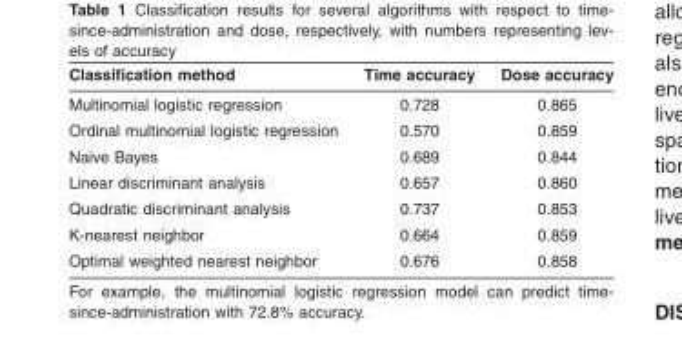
<table><thead><tr><td>Classification method</td><td>Time accuracy</td><td>Dose accuracy</td></tr></thead><tbody><tr><td>Multinomial logistic regression</td><td>0.728</td><td>0.865</td></tr><tr><td>Ordinal multinomial logistic regression</td><td>0.570</td><td>0.859</td></tr><tr><td>Naive Bayes</td><td>0.689</td><td>0.844</td></tr><tr><td>Linear discriminant analysis</td><td>0.657</td><td>0.860</td></tr><tr><td>Quadratic discriminant analysis</td><td>0.737</td><td>0.853</td></tr><tr><td>K-nearest neighbor</td><td>0.664</td><td>0.859</td></tr><tr><td>Optimal weighted nearest neighbor</td><td>0.676</td><td>0.858</td></tr></tbody></table>